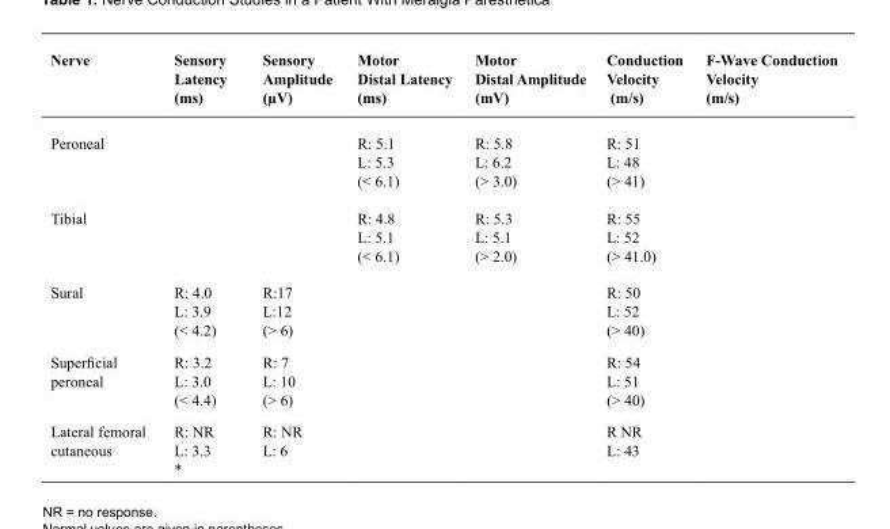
<table><thead><tr><td>Nerve</td><td>Sensory Latency (ms)</td><td>Sensory Amplitude (µV)</td><td>Motor Distal Latency (ms)</td><td>Motor Distal Amplitude (mV)</td><td>Conduction Velocity (m/s)</td><td>F-Wave Conduction Velocity (m/s)</td></tr></thead><tbody><tr><td>Peroneal</td><td></td><td></td><td>R: 5.1 L: 5.3 (&lt; 6.1)</td><td>R: 5.8 L: 6.2 (&gt; 3.0)</td><td>R: 51 L: 48 (&gt; 41)</td><td></td></tr><tr><td>Tibial</td><td></td><td></td><td>R: 4.8 L: 5.1 (&lt; 6.1)</td><td>R: 5.3 L: 5.1 (&gt; 2.0)</td><td>R: 55 L: 52 (&gt; 41.0)</td><td></td></tr><tr><td>Sural</td><td>R: 4.0 L: 3.9 (&lt; 4.2)</td><td>R:17 L:12 (&gt; 6)</td><td></td><td></td><td>R: 50 L: 52 (&gt; 40)</td><td></td></tr><tr><td>Superficial peroneal</td><td>R: 3.2 L: 3.0 (&lt; 4.4)</td><td>R: 7 L: 10 (&gt; 6)</td><td></td><td></td><td>R: 54 L: 51 (&gt; 40)</td><td></td></tr><tr><td>Lateral femoral cutaneous</td><td>R: NR L: 3.3 *</td><td>R: NR L: 6</td><td></td><td></td><td>R NR L: 43</td><td></td></tr></tbody></table>